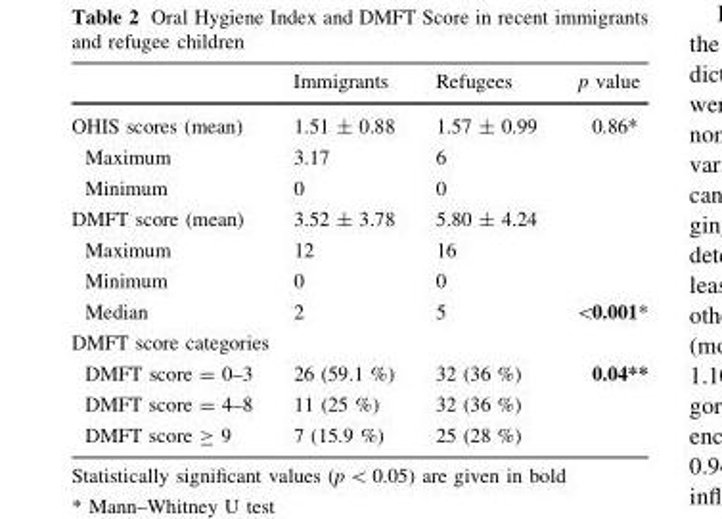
<table><thead><tr><td></td><td>Immigrants</td><td>Refugees</td><td>p value</td></tr></thead><tbody><tr><td>OHIS scores (mean)</td><td>1.51 ± 0.88</td><td>1.57 ± 0.99</td><td>0.86*</td></tr><tr><td>Maximum</td><td>3.17</td><td>6</td><td></td></tr><tr><td>Minimum</td><td>0</td><td>0</td><td></td></tr><tr><td>DMFT score (mean)</td><td>3.52 ± 3.78</td><td>5.80 ± 4.24</td><td></td></tr><tr><td>Maximum</td><td>12</td><td>16</td><td></td></tr><tr><td>Minimum</td><td>0</td><td>0</td><td></td></tr><tr><td>Median</td><td>2</td><td>5</td><td>&lt;0.001*</td></tr><tr><td colspan="4">DMFT score categories</td></tr><tr><td>DMFT score = 0–3</td><td>26 (59.1 %)</td><td>32 (36 %)</td><td>0.04**</td></tr><tr><td>DMFT score = 4–8</td><td>11 (25 %)</td><td>32 (36 %)</td><td></td></tr><tr><td>DMFT score ≥ 9</td><td>7 (15.9 %)</td><td>25 (28 %)</td><td></td></tr></tbody></table>